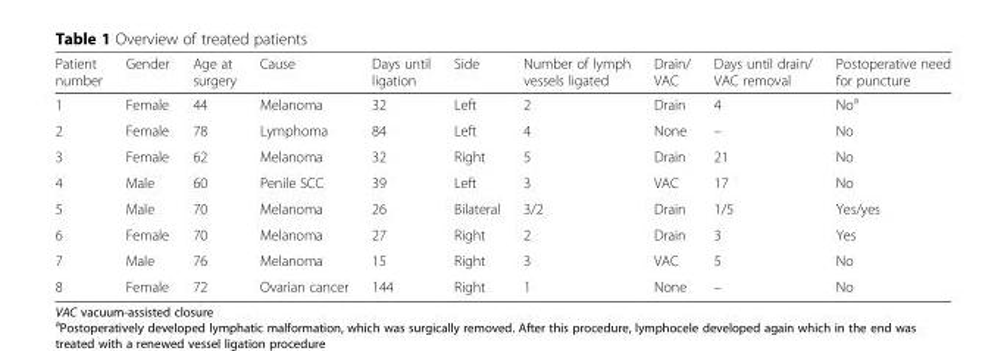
<table><thead><tr><td>Patient number</td><td>Gender</td><td>Age at surgery</td><td>Cause</td><td>Days until ligation</td><td>Side</td><td>Number of lymph vessels ligated</td><td>Drain/ VAC</td><td>Days until drain/ VAC removal</td><td>Postoperative need for puncture</td></tr></thead><tbody><tr><td>1</td><td>Female</td><td>44</td><td>Melanoma</td><td>32</td><td>Left</td><td>2</td><td>Drain</td><td>4</td><td>No<sup>a</sup></td></tr><tr><td>2</td><td>Female</td><td>78</td><td>Lymphoma</td><td>84</td><td>Left</td><td>4</td><td>None</td><td>–</td><td>No</td></tr><tr><td>3</td><td>Female</td><td>62</td><td>Melanoma</td><td>32</td><td>Right</td><td>5</td><td>Drain</td><td>21</td><td>No</td></tr><tr><td>4</td><td>Male</td><td>60</td><td>Penile SCC</td><td>39</td><td>Left</td><td>3</td><td>VAC</td><td>17</td><td>No</td></tr><tr><td>5</td><td>Male</td><td>70</td><td>Melanoma</td><td>26</td><td>Bilateral</td><td>3/2</td><td>Drain</td><td>1/5</td><td>Yes/yes</td></tr><tr><td>6</td><td>Female</td><td>70</td><td>Melanoma</td><td>27</td><td>Right</td><td>2</td><td>Drain</td><td>3</td><td>Yes</td></tr><tr><td>7</td><td>Male</td><td>76</td><td>Melanoma</td><td>15</td><td>Right</td><td>3</td><td>VAC</td><td>5</td><td>No</td></tr><tr><td>8</td><td>Female</td><td>72</td><td>Ovarian cancer</td><td>144</td><td>Right</td><td>1</td><td>None</td><td>–</td><td>No</td></tr></tbody></table>